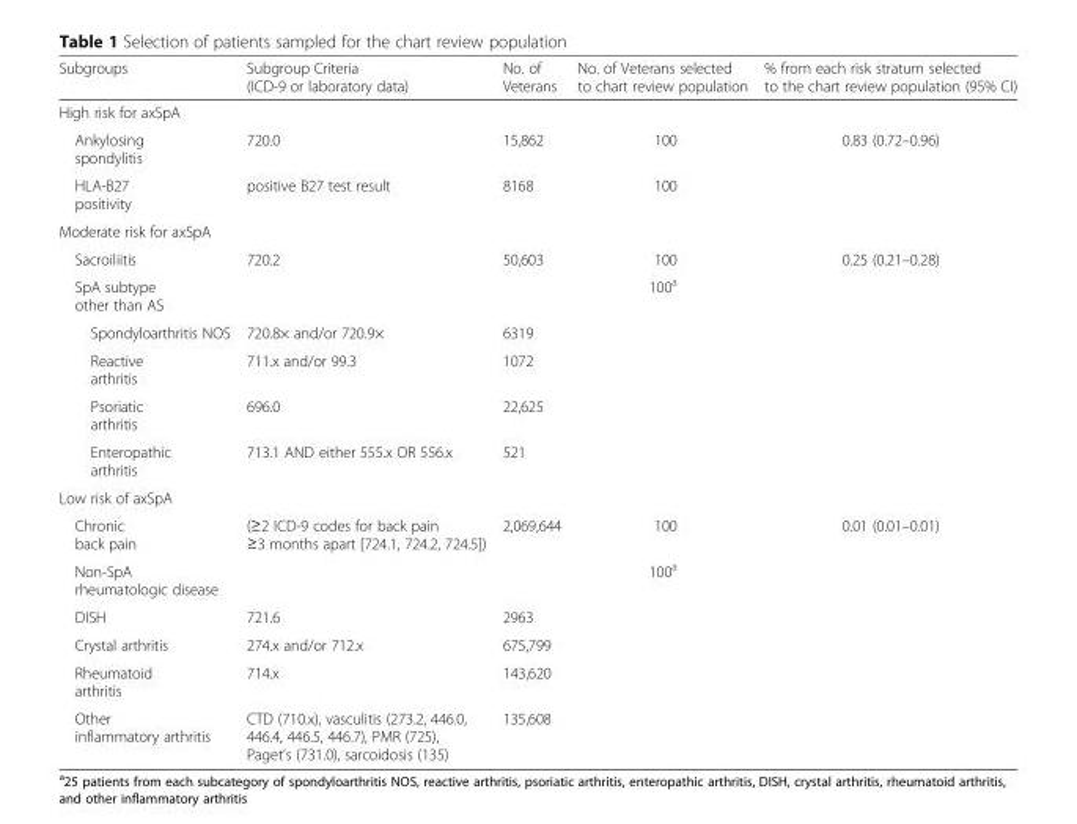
<table><thead><tr><td>Subgroups</td><td>Subgroup Criteria (ICD-9 or laboratory data)</td><td>No. of Veterans</td><td>No. of Veterans selected to chart review population</td><td>% from each risk stratum selected to the chart review population (95% CI)</td></tr></thead><tbody><tr><td colspan="5">High risk for axSpA</td></tr><tr><td>Ankylosing spondylitis</td><td>720.0</td><td>15,862</td><td>100</td><td rowspan="2">0.83 (0.72–0.96)</td></tr><tr><td>HLA-B27 positivity</td><td>positive B27 test result</td><td>8168</td><td>100</td></tr><tr><td colspan="5">Moderate risk for axSpA</td></tr><tr><td>Sacroiliitis</td><td>720.2</td><td>50,603</td><td>100</td><td rowspan="6">0.25 (0.21–0.28)</td></tr><tr><td colspan="3">SpA subtype other than AS</td><td rowspan="5">100<sup>a</sup></td></tr><tr><td>Spondyloarthritis NOS</td><td>720.8× and/or 720.9×</td><td>6319</td></tr><tr><td>Reactive arthritis</td><td>711.x and/or 99.3</td><td>1072</td></tr><tr><td>Psoriatic arthritis</td><td>696.0</td><td>22,625</td></tr><tr><td>Enteropathic arthritis</td><td>713.1 AND either 555.x OR 556.x</td><td>521</td></tr><tr><td colspan="5">Low risk of axSpA</td></tr><tr><td>Chronic back pain</td><td>(≥2 ICD-9 codes for back pain ≥3 months apart [724.1, 724.2, 724.5])</td><td>2,069,644</td><td>100</td><td rowspan="6">0.01 (0.01–0.01)</td></tr><tr><td colspan="3">Non-SpA rheumatologic disease</td><td rowspan="5">100<sup>a</sup></td></tr><tr><td>DISH</td><td>721.6</td><td>2963</td></tr><tr><td>Crystal arthritis</td><td>274.x and/or 712.x</td><td>675,799</td></tr><tr><td>Rheumatoid arthritis</td><td>714.x</td><td>143,620</td></tr><tr><td>Other inflammatory arthritis</td><td>CTD (710.x), vasculitis (273.2, 446.0, 446.4, 446.5, 446.7), PMR (725), Paget’s (731.0), sarcoidosis (135)</td><td>135,608</td></tr></tbody></table>